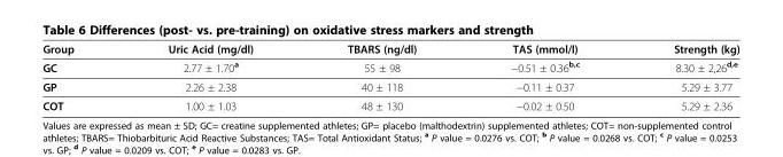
<table><thead><tr><td>Group</td><td>Uric Acid (mg/dl)</td><td>TBARS (ng/dl)</td><td>TAS (mmol/l)</td><td>Strength (kg)</td></tr></thead><tbody><tr><td>GC</td><td>2.77 ± 1.70<sup>a</sup></td><td>55 ± 98</td><td>−0.51 ± 0.36<sup>b,c</sup></td><td>8.30 ± 2,26<sup>d,e</sup></td></tr><tr><td>GP</td><td>2.26 ± 2.38</td><td>40 ± 118</td><td>−0.11 ± 0.37</td><td>5.29 ± 3.77</td></tr><tr><td>COT</td><td>1.00 ± 1.03</td><td>48 ± 130</td><td>−0.02 ± 0.50</td><td>5.29 ± 2.36</td></tr></tbody></table>